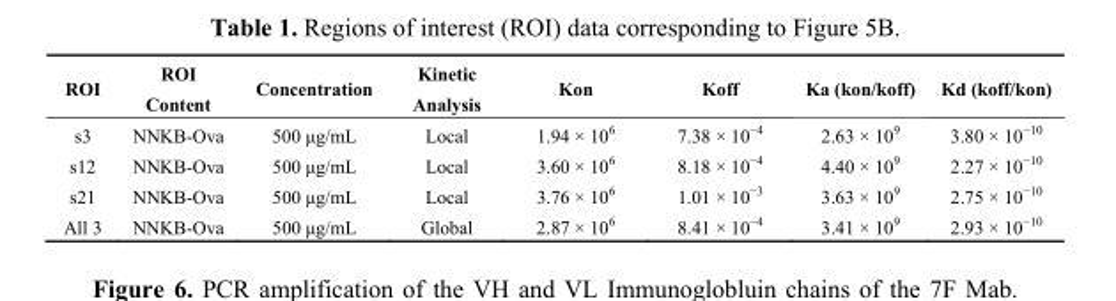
<table><thead><tr><td>ROI</td><td>ROI Content</td><td>Concentration</td><td>Kinetic Analysis</td><td>Kon</td><td>Koff</td><td>Ka (kon/koff)</td><td>Kd (koff/kon)</td></tr></thead><tbody><tr><td>s3</td><td>NNKB-Ova</td><td>500 μg/mL</td><td>Local</td><td>1.94 × 10<sup>6</sup></td><td>7.38 × 10<sup>−4</sup></td><td>2.63 × 10<sup>9</sup></td><td>3.80 × 10<sup>−10</sup></td></tr><tr><td>s12</td><td>NNKB-Ova</td><td>500 μg/mL</td><td>Local</td><td>3.60 × 10<sup>6</sup></td><td>8.18 × 10<sup>−4</sup></td><td>4.40 × 10<sup>9</sup></td><td>2.27 × 10<sup>−10</sup></td></tr><tr><td>s21</td><td>NNKB-Ova</td><td>500 μg/mL</td><td>Local</td><td>3.76 × 10<sup>6</sup></td><td>1.01 × 10<sup>−3</sup></td><td>3.63 × 10<sup>9</sup></td><td>2.75 × 10<sup>−10</sup></td></tr><tr><td>All 3</td><td>NNKB-Ova</td><td>500 μg/mL</td><td>Global</td><td>2.87 × 10<sup>6</sup></td><td>8.41 × 10<sup>−4</sup></td><td>3.41 × 10<sup>9</sup></td><td>2.93 × 10<sup>−10</sup></td></tr></tbody></table>